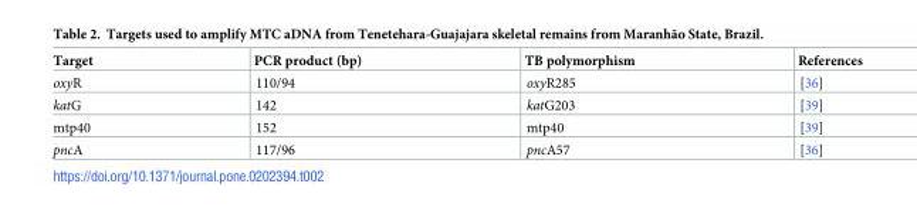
<table><thead><tr><td>Target</td><td>PCR product (bp)</td><td>TB polymorphism</td><td>References</td></tr></thead><tbody><tr><td>oxyR</td><td>110/94</td><td>oxyR285</td><td>[36]</td></tr><tr><td>katG</td><td>142</td><td>katG203</td><td>[39]</td></tr><tr><td>mtp40</td><td>152</td><td>mtp40</td><td>[39]</td></tr><tr><td>pncA</td><td>117/96</td><td>pncA57</td><td>[36]</td></tr></tbody></table>